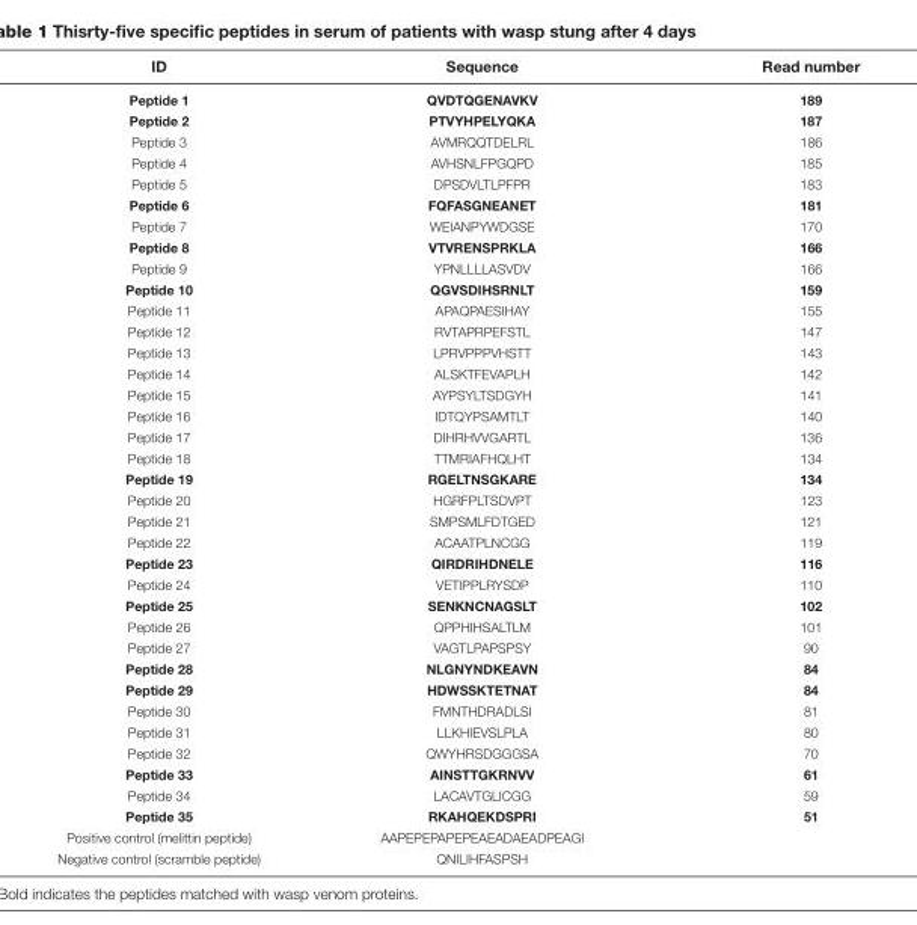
<table><thead><tr><td>ID</td><td>Sequence</td><td>Read number</td></tr></thead><tbody><tr><td>Peptide 1</td><td>QVDTQGENAVKV</td><td>189</td></tr><tr><td>Peptide 2</td><td>PTVYHPELYQKA</td><td>187</td></tr><tr><td>Peptide 3</td><td>AVMRQQTDELRL</td><td>186</td></tr><tr><td>Peptide 4</td><td>AVHSNLFPGQPD</td><td>185</td></tr><tr><td>Peptide 5</td><td>DPSDVLTLPFPR</td><td>183</td></tr><tr><td>Peptide 6</td><td>FQFASGNEANET</td><td>181</td></tr><tr><td>Peptide 7</td><td>WEIANPYWDGSE</td><td>170</td></tr><tr><td>Peptide 8</td><td>VTVRENSPRKLA</td><td>166</td></tr><tr><td>Peptide 9</td><td>YPNLLLLASVDV</td><td>166</td></tr><tr><td>Peptide 10</td><td>QGVSDIHSRNLT</td><td>159</td></tr><tr><td>Peptide 11</td><td>APAQPAESIHAY</td><td>155</td></tr><tr><td>Peptide 12</td><td>RVTAPRPEFSTL</td><td>147</td></tr><tr><td>Peptide 13</td><td>LPRVPPPVHSTT</td><td>143</td></tr><tr><td>Peptide 14</td><td>ALSKTFEVAPLH</td><td>142</td></tr><tr><td>Peptide 15</td><td>AYPSYLTSDGYH</td><td>141</td></tr><tr><td>Peptide 16</td><td>IDTQYPSAMTLT</td><td>140</td></tr><tr><td>Peptide 17</td><td>DIHRHVVGARTL</td><td>136</td></tr><tr><td>Peptide 18</td><td>TTMRIAFHQLHT</td><td>134</td></tr><tr><td>Peptide 19</td><td>RGELTNSGKARE</td><td>134</td></tr><tr><td>Peptide 20</td><td>HGRFPLTSDVPT</td><td>123</td></tr><tr><td>Peptide 21</td><td>SMPSMLFDTGED</td><td>121</td></tr><tr><td>Peptide 22</td><td>ACAATPLNCGG</td><td>119</td></tr><tr><td>Peptide 23</td><td>QIRDRIHDNELE</td><td>116</td></tr><tr><td>Peptide 24</td><td>VETIPPLRYSDP</td><td>110</td></tr><tr><td>Peptide 25</td><td>SENKNCNAGSLT</td><td>102</td></tr><tr><td>Peptide 26</td><td>QPPHIHSALTLM</td><td>101</td></tr><tr><td>Peptide 27</td><td>VAGTLPAPSPSY</td><td>90</td></tr><tr><td>Peptide 28</td><td>NLGNYNDKEAVN</td><td>84</td></tr><tr><td>Peptide 29</td><td>HDWSSKTETNAT</td><td>84</td></tr><tr><td>Peptide 30</td><td>FMNTHDRADLSI</td><td>81</td></tr><tr><td>Peptide 31</td><td>LLKHIEVSLPLA</td><td>80</td></tr><tr><td>Peptide 32</td><td>QWYHRSDGGGSA</td><td>70</td></tr><tr><td>Peptide 33</td><td>AINSTTGKRNVV</td><td>61</td></tr><tr><td>Peptide 34</td><td>LACAVTGLICGG</td><td>59</td></tr><tr><td>Peptide 35</td><td>RKAHQEKDSPRI</td><td>51</td></tr><tr><td>Positive control (melittin peptide)</td><td>AAPEPEPAPEPEAEADAEADPEAGI</td><td></td></tr><tr><td>Negative control (scramble peptide)</td><td>QNILIHFASPSH</td><td></td></tr></tbody></table>